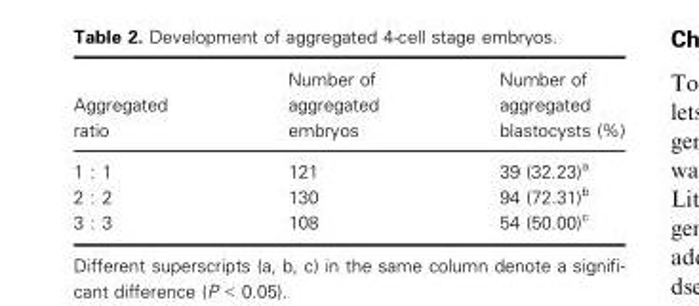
<table><thead><tr><td>Aggregated ratio</td><td>Number of aggregated embryos</td><td>Number of aggregated blastocysts (%)</td></tr></thead><tbody><tr><td>1 : 1</td><td>121</td><td>39 (32.23)<sup>a</sup></td></tr><tr><td>2 : 2</td><td>130</td><td>94 (72.31)<sup>b</sup></td></tr><tr><td>3 : 3</td><td>108</td><td>54 (50.00)<sup>c</sup></td></tr></tbody></table>